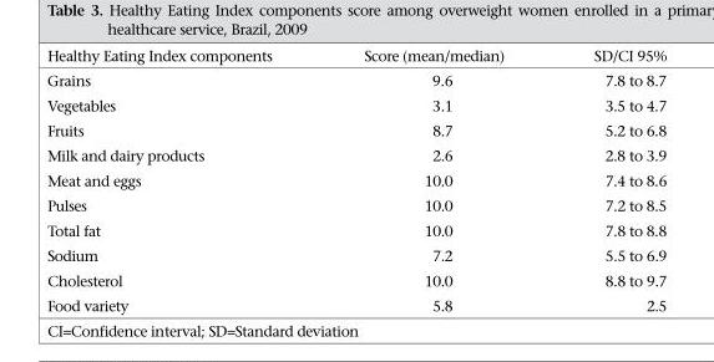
<table><thead><tr><td>Healthy Eating Index components</td><td>Score (mean/median)</td><td>SD/CI 95%</td></tr></thead><tbody><tr><td>Grains</td><td>9.6</td><td>7.8 to 8.7</td></tr><tr><td>Vegetables</td><td>3.1</td><td>3.5 to 4.7</td></tr><tr><td>Fruits</td><td>8.7</td><td>5.2 to 6.8</td></tr><tr><td>Milk and dairy products</td><td>2.6</td><td>2.8 to 3.9</td></tr><tr><td>Meat and eggs</td><td>10.0</td><td>7.4 to 8.6</td></tr><tr><td>Pulses</td><td>10.0</td><td>7.2 to 8.5</td></tr><tr><td>Total fat</td><td>10.0</td><td>7.8 to 8.8</td></tr><tr><td>Sodium</td><td>7.2</td><td>5.5 to 6.9</td></tr><tr><td>Cholesterol</td><td>10.0</td><td>8.8 to 9.7</td></tr><tr><td>Food variety</td><td>5.8</td><td>2.5</td></tr></tbody></table>